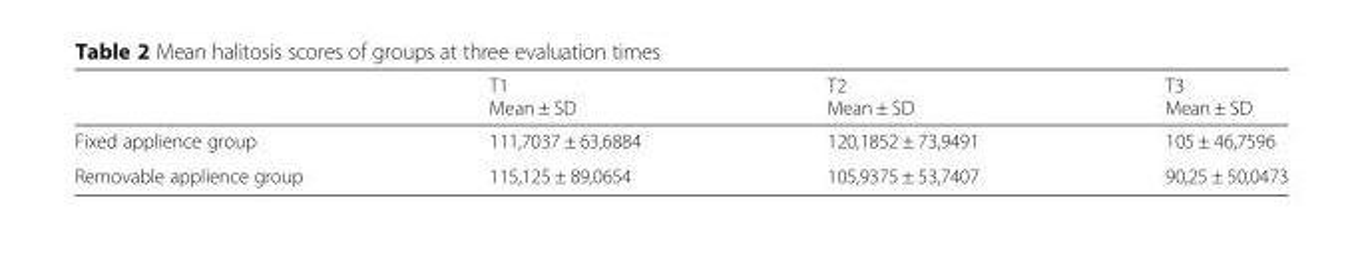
<table><thead><tr><td></td><td>T1 Mean ± SD</td><td>T2 Mean ± SD</td><td>T3 Mean ± SD</td></tr></thead><tbody><tr><td>Fixed applience group</td><td>111,7037 ± 63,6884</td><td>120,1852 ± 73,9491</td><td>105 ± 46,7596</td></tr><tr><td>Removable applience group</td><td>115,125 ± 89,0654</td><td>105,9375 ± 53,7407</td><td>90,25 ± 50,0473</td></tr></tbody></table>